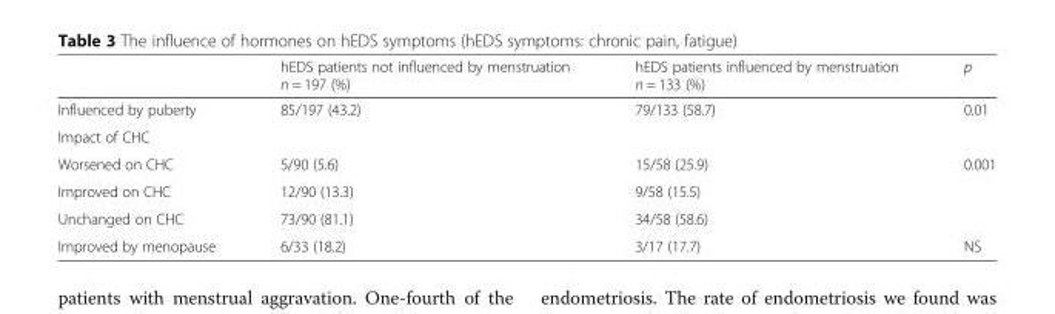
<table><thead><tr><td></td><td>hEDS patients not influenced by menstruation n = 197 (%)</td><td>hEDS patients influenced by menstruation n = 133 (%)</td><td>p</td></tr></thead><tbody><tr><td>Influenced by puberty</td><td>85/197 (43.2)</td><td>79/133 (58.7)</td><td>0.01</td></tr><tr><td colspan="4">Impact of CHC</td></tr><tr><td>Worsened on CHC</td><td>5/90 (5.6)</td><td>15/58 (25.9)</td><td rowspan="3">0.001</td></tr><tr><td>Improved on CHC</td><td>12/90 (13.3)</td><td>9/58 (15.5)</td></tr><tr><td>Unchanged on CHC</td><td>73/90 (81.1)</td><td>34/58 (58.6)</td></tr><tr><td>Improved by menopause</td><td>6/33 (18.2)</td><td>3/17 (17.7)</td><td>NS</td></tr></tbody></table>